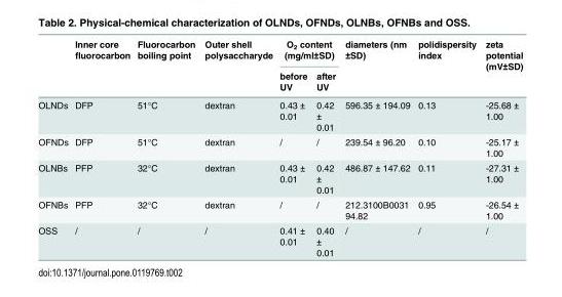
<table><thead><tr><td rowspan="2"></td><td rowspan="2">Inner core fluorocarbon</td><td rowspan="2">Fluorocarbon boiling point</td><td rowspan="2">Outer shell polysaccharyde</td><td colspan="2">O<sub>2</sub> content (mg/ml±SD)</td><td rowspan="2">diameters (nm ±SD)</td><td rowspan="2">polidispersity index</td><td rowspan="2">zeta potential (mV±SD)</td></tr><tr><td>before UV</td><td>after UV</td></tr></thead><tbody><tr><td>OLNDs</td><td>DFP</td><td>51°C</td><td>dextran</td><td>0.43 ± 0.01</td><td>0.42 ± 0.01</td><td>596.35 ± 194.09</td><td>0.13</td><td>-25.68 ± 1.00</td></tr><tr><td>OFNDs</td><td>DFP</td><td>51°C</td><td>dextran</td><td>/</td><td>/</td><td>239.54 ± 96.20</td><td>0.10</td><td>-25.17 ± 1.00</td></tr><tr><td>OLNBs</td><td>PFP</td><td>32°C</td><td>dextran</td><td>0.43 ± 0.01</td><td>0.42 ± 0.01</td><td>486.87 ± 147.62</td><td>0.11</td><td>-27.31 ± 1.00</td></tr><tr><td>OFNBs</td><td>PFP</td><td>32°C</td><td>dextran</td><td>/</td><td>/</td><td>212.3100B0031 94.82</td><td>0.95</td><td>-26.54 ± 1.00</td></tr><tr><td>OSS</td><td>/</td><td>/</td><td>/</td><td>0.41 ± 0.01</td><td>0.40 ± 0.01</td><td>/</td><td>/</td><td>/</td></tr></tbody></table>